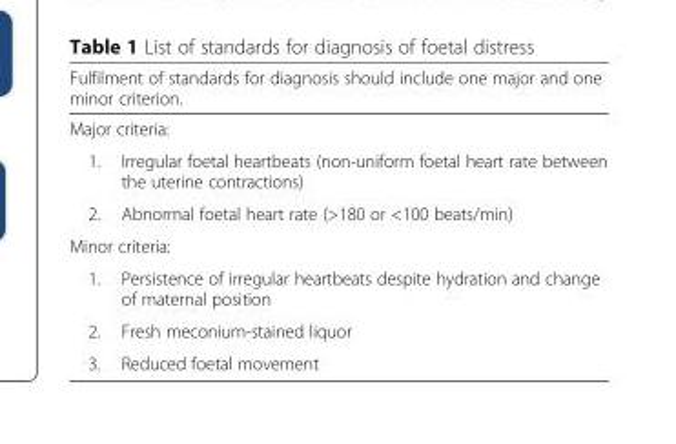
<table><thead><tr><td rowspan="2" colspan="2">Fulfilment of standards for diagnosis should include one major and one minor criterion. Major criteria:</td></tr><tr></tr><tr><td>1.</td><td>Irregular foetal heartbeats (non-uniform foetal heart rate between the uterine contractions)</td></tr></thead><tbody><tr><td>2.</td><td>Abnormal foetal heart rate (&gt;180 or &lt;100 beats/min)</td></tr><tr><td colspan="2">Minor criteria:</td></tr><tr><td>1.</td><td>Persistence of irregular heartbeats despite hydration and change of maternal position</td></tr><tr><td>2.</td><td>Fresh meconium-stained liquor</td></tr><tr><td>3.</td><td>Reduced foetal movement</td></tr></tbody></table>